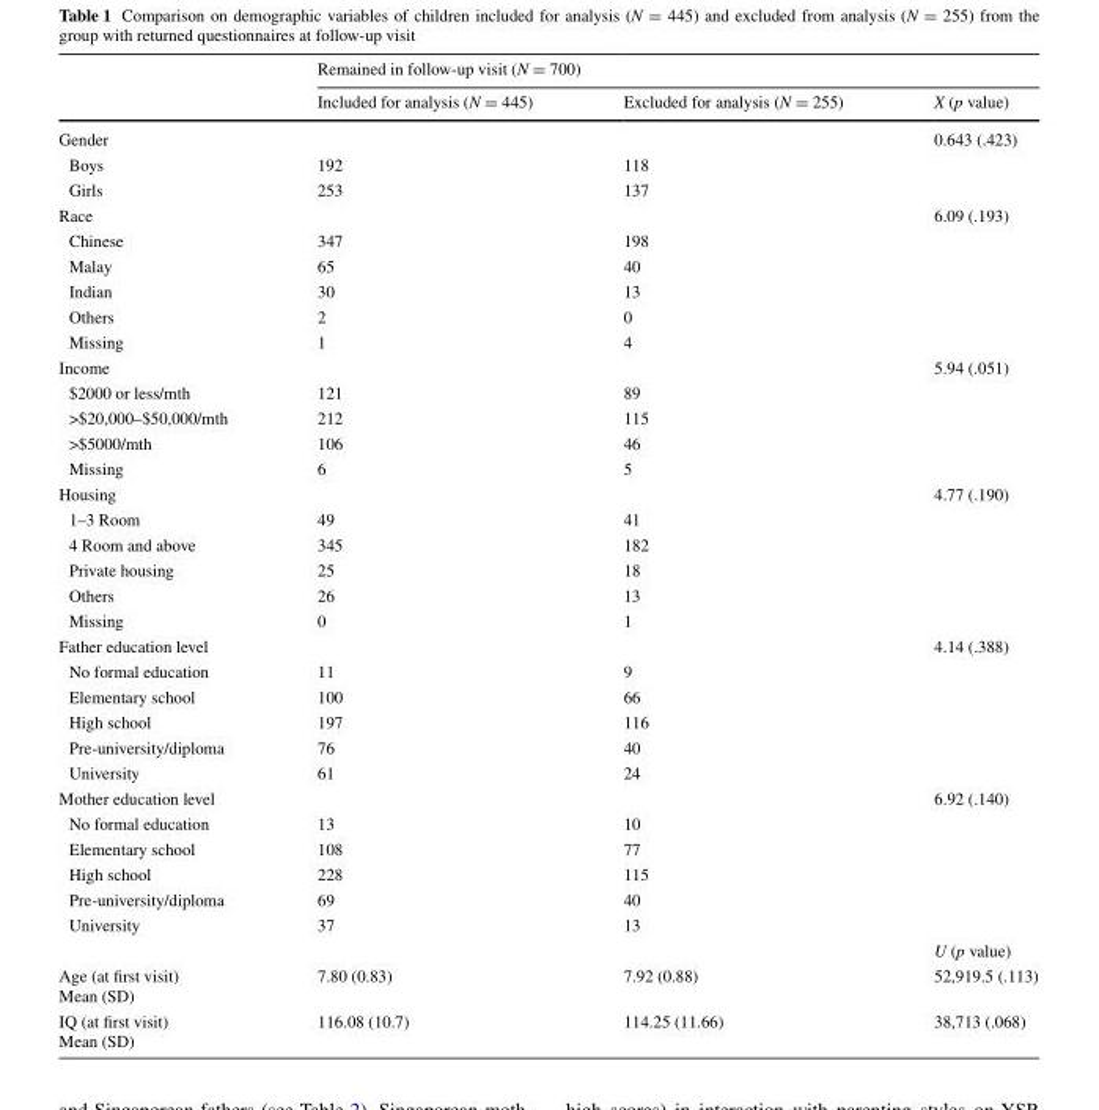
<table><thead><tr><td rowspan="2"></td><td colspan="3">Remained in follow-up visit (N = 700)</td></tr><tr><td>Included for analysis (N = 445)</td><td>Excluded for analysis (N = 255)</td><td>X (p value)</td></tr></thead><tbody><tr><td>Gender</td><td></td><td></td><td>0.643 (.423)</td></tr><tr><td>Boys</td><td>192</td><td>118</td><td></td></tr><tr><td>Girls</td><td>253</td><td>137</td><td></td></tr><tr><td>Race</td><td></td><td></td><td>6.09 (.193)</td></tr><tr><td>Chinese</td><td>347</td><td>198</td><td></td></tr><tr><td>Malay</td><td>65</td><td>40</td><td></td></tr><tr><td>Indian</td><td>30</td><td>13</td><td></td></tr><tr><td>Others</td><td>2</td><td>0</td><td></td></tr><tr><td>Missing</td><td>1</td><td>4</td><td></td></tr><tr><td>Income</td><td></td><td></td><td>5.94 (.051)</td></tr><tr><td>$2000 or less/mth</td><td>121</td><td>89</td><td></td></tr><tr><td>&gt;$20,000–$50,000/mth</td><td>212</td><td>115</td><td></td></tr><tr><td>&gt;$5000/mth</td><td>106</td><td>46</td><td></td></tr><tr><td>Missing</td><td>6</td><td>5</td><td></td></tr><tr><td>Housing</td><td></td><td></td><td>4.77 (.190)</td></tr><tr><td>1–3 Room</td><td>49</td><td>41</td><td></td></tr><tr><td>4 Room and above</td><td>345</td><td>182</td><td></td></tr><tr><td>Private housing</td><td>25</td><td>18</td><td></td></tr><tr><td>Others</td><td>26</td><td>13</td><td></td></tr><tr><td>Missing</td><td>0</td><td>1</td><td></td></tr><tr><td>Father education level</td><td></td><td></td><td>4.14 (.388)</td></tr><tr><td>No formal education</td><td>11</td><td>9</td><td></td></tr><tr><td>Elementary school</td><td>100</td><td>66</td><td></td></tr><tr><td>High school</td><td>197</td><td>116</td><td></td></tr><tr><td>Pre-university/diploma</td><td>76</td><td>40</td><td></td></tr><tr><td>University</td><td>61</td><td>24</td><td></td></tr><tr><td>Mother education level</td><td></td><td></td><td>6.92 (.140)</td></tr><tr><td>No formal education</td><td>13</td><td>10</td><td></td></tr><tr><td>Elementary school</td><td>108</td><td>77</td><td></td></tr><tr><td>High school</td><td>228</td><td>115</td><td></td></tr><tr><td>Pre-university/diploma</td><td>69</td><td>40</td><td></td></tr><tr><td rowspan="2">University</td><td>37</td><td>13</td><td></td></tr><tr><td></td><td></td><td>U (p value)</td></tr><tr><td>Age (at first visit) Mean (SD)</td><td>7.80 (0.83)</td><td>7.92 (0.88)</td><td>52,919.5 (.113)</td></tr><tr><td>IQ (at first visit) Mean (SD)</td><td>116.08 (10.7)</td><td>114.25 (11.66)</td><td>38,713 (.068)</td></tr></tbody></table>